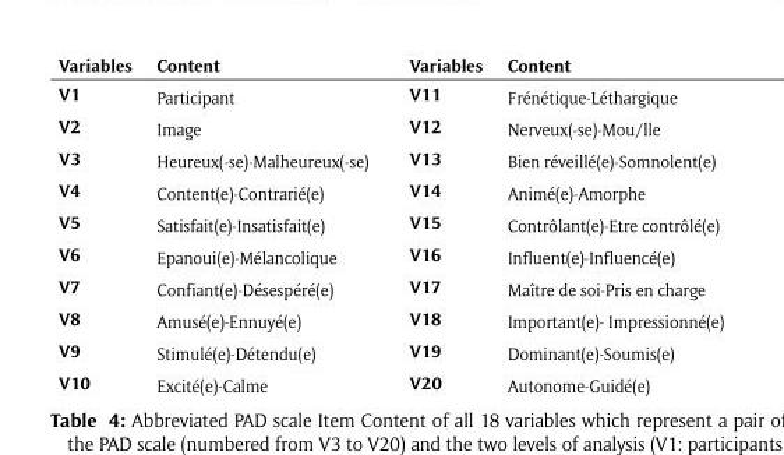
<table><thead><tr><td>Variables</td><td>Content</td><td>Variables</td><td>Content</td></tr></thead><tbody><tr><td>V1</td><td>Participant</td><td>V11</td><td>Frénétique-Léthargique</td></tr><tr><td>V2</td><td>Image</td><td>V12</td><td>Nerveux(-se)-Mou/lle</td></tr><tr><td>V3</td><td>Heureux(-se)-Malheureux(-se)</td><td>V13</td><td>Bien réveillé(e)-Somnolent(e)</td></tr><tr><td>V4</td><td>Content(e)-Contrarié(e)</td><td>V14</td><td>Animé(e)-Amorphe</td></tr><tr><td>V5</td><td>Satisfait(e)-Insatisfait(e)</td><td>V15</td><td>Contrôlant(e)-Etre contrôlé(e)</td></tr><tr><td>V6</td><td>Epanoui(e)-Mélancolique</td><td>V16</td><td>Influent(e)-Influencé(e)</td></tr><tr><td>V7</td><td>Confiant(e)-Désespéré(e)</td><td>V17</td><td>Maître de soi-Pris en charge</td></tr><tr><td>V8</td><td>Amusé(e)-Ennuyé(e)</td><td>V18</td><td>Important(e)- Impressionné(e)</td></tr><tr><td>V9</td><td>Stimulé(e)-Détendu(e)</td><td>V19</td><td>Dominant(e)-Soumis(e)</td></tr><tr><td>V10</td><td>Excité(e)-Calme</td><td>V20</td><td>Autonome-Guidé(e)</td></tr></tbody></table>